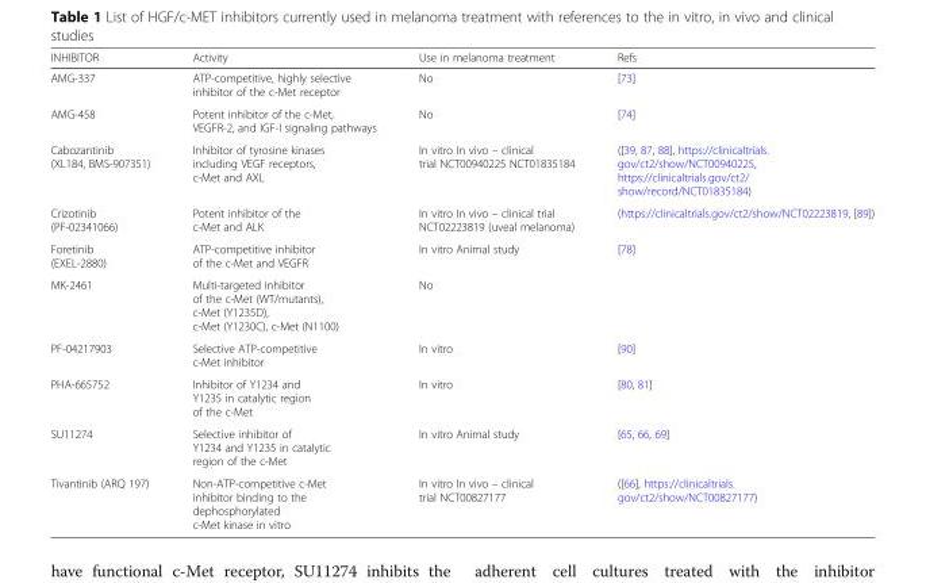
<table><thead><tr><td>INHIBITOR</td><td>Activity</td><td>Use in melanoma treatment</td><td>Refs</td></tr></thead><tbody><tr><td>AMG-337</td><td>ATP-competitive, highly selective inhibitor of the c-Met receptor</td><td>No</td><td>[73]</td></tr><tr><td>AMG-458</td><td>Potent inhibitor of the c-Met, VEGFR-2, and IGF-I signaling pathways</td><td>No</td><td>[74]</td></tr><tr><td>Cabozantinib (XL184, BMS-907351)</td><td>Inhibitor of tyrosine kinases including VEGF receptors, c-Met and AXL</td><td>In vitro In vivo – clinical trial NCT00940225 NCT01835184</td><td>([39, 87, 88], https://clinicaltrials. gov/ct2/show/NCT00940225, https://clinicaltrials.gov/ct2/ show/record/NCT01835184)</td></tr><tr><td>Crizotinib (PF-02341066)</td><td>Potent inhibitor of the c-Met and ALK</td><td>In vitro In vivo – clinical trial NCT02223819 (uveal melanoma)</td><td>(https://clinicaltrials.gov/ct2/show/NCT02223819, [89])</td></tr><tr><td>Foretinib (EXEL-2880)</td><td>ATP-competitive inhibitor of the c-Met and VEGFR</td><td>In vitro Animal study</td><td>[78]</td></tr><tr><td>MK-2461</td><td>Multi-targeted inhibitor of the c-Met (WT/mutants), c-Met (Y1235D), c-Met (Y1230C), c-Met (N1100)</td><td>No</td><td></td></tr><tr><td>PF-04217903</td><td>Selective ATP-competitive c-Met inhibitor</td><td>In vitro</td><td>[90]</td></tr><tr><td>PHA-665752</td><td>Inhibitor of Y1234 and Y1235 in catalytic region of the c-Met</td><td>In vitro</td><td>[80, 81]</td></tr><tr><td>SU11274</td><td>Selective inhibitor of Y1234 and Y1235 in catalytic region of the c-Met</td><td>In vitro Animal study</td><td>[65, 66, 69]</td></tr><tr><td>Tivantinib (ARQ 197)</td><td>Non-ATP-competitive c-Met inhibitor binding to the dephosphorylated c-Met kinase in vitro</td><td>In vitro In vivo – clinical trial NCT00827177</td><td>([66], https://clinicaltrials. gov/ct2/show/NCT00827177)</td></tr></tbody></table>